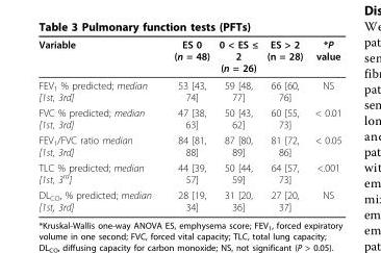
<table><tbody><tr><td>Variable</td><td>ES 0 (n = 48)</td><td>0 &lt; ES ≤ 2 (n = 26)</td><td>ES &gt; 2 (n = 28)</td><td>*P value</td></tr><tr><td>FEV<sub>1</sub> % predicted; median [1st, 3rd]</td><td>53 [43, 74]</td><td>59 [48, 77]</td><td>66 [60, 76]</td><td>NS</td></tr><tr><td>FVC % predicted; median [1st, 3rd]</td><td>47 [38, 63]</td><td>50 [43, 62]</td><td>60 [55, 73]</td><td>&lt; 0.01</td></tr><tr><td>FEV<sub>1</sub>/FVC ratio median [1st, 3rd]</td><td>84 [81, 88]</td><td>87 [80, 89]</td><td>81 [72, 86]</td><td>&lt; 0.05</td></tr><tr><td>TLC % predicted; median [1st, 3<sup>rd</sup>]</td><td>44 [39, 57]</td><td>50 [44, 59]</td><td>64 [57, 73]</td><td>&lt;.001</td></tr><tr><td>DL<sub>CO</sub>, % predicted; median [1st, 3rd]</td><td>28 [19, 34]</td><td>31 [20, 36]</td><td>27 [20, 37]</td><td>NS</td></tr></tbody></table>